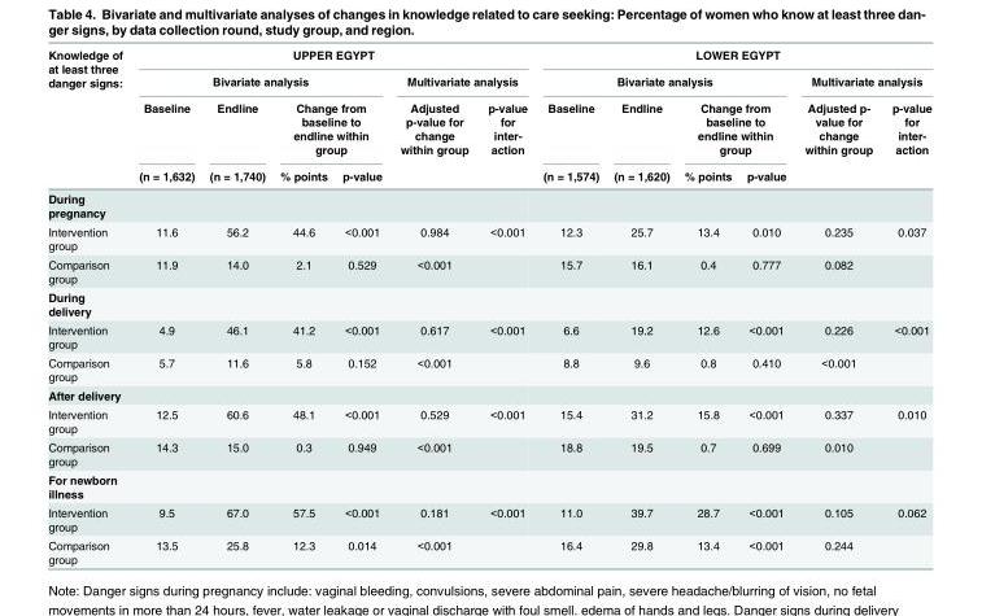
<table><thead><tr><td rowspan="4">Knowledge of at least three danger signs:</td><td colspan="6">UPPER EGYPT</td><td colspan="6">LOWER EGYPT</td></tr><tr><td colspan="4">Bivariate analysis</td><td colspan="2">Multivariate analysis</td><td colspan="4">Bivariate analysis</td><td colspan="2">Multivariate analysis</td></tr><tr><td rowspan="2">Baseline (n = 1,632)</td><td rowspan="2">Endline (n = 1,740)</td><td colspan="2">Change from baseline to endline within group</td><td rowspan="2">Adjusted p-value for change within group</td><td rowspan="2">p-value for inter- action</td><td rowspan="2">Baseline (n = 1,574)</td><td rowspan="2">Endline (n = 1,620)</td><td colspan="2">Change from baseline to endline within group</td><td rowspan="2">Adjusted p- value for change within group</td><td rowspan="2">p-value for inter- action</td></tr><tr><td>% points</td><td>p-value</td><td>% points</td><td>p-value</td></tr></thead><tbody><tr><td colspan="13">During pregnancy</td></tr><tr><td>Intervention group</td><td>11.6</td><td>56.2</td><td>44.6</td><td>&lt;0.001</td><td>0.984</td><td>&lt;0.001</td><td>12.3</td><td>25.7</td><td>13.4</td><td>0.010</td><td>0.235</td><td>0.037</td></tr><tr><td>Comparison group</td><td>11.9</td><td>14.0</td><td>2.1</td><td>0.529</td><td>&lt;0.001</td><td></td><td>15.7</td><td>16.1</td><td>0.4</td><td>0.777</td><td>0.082</td><td></td></tr><tr><td colspan="13">During delivery</td></tr><tr><td>Intervention group</td><td>4.9</td><td>46.1</td><td>41.2</td><td>&lt;0.001</td><td>0.617</td><td>&lt;0.001</td><td>6.6</td><td>19.2</td><td>12.6</td><td>&lt;0.001</td><td>0.226</td><td>&lt;0.001</td></tr><tr><td>Comparison group</td><td>5.7</td><td>11.6</td><td>5.8</td><td>0.152</td><td>&lt;0.001</td><td></td><td>8.8</td><td>9.6</td><td>0.8</td><td>0.410</td><td>&lt;0.001</td><td></td></tr><tr><td colspan="13">After delivery</td></tr><tr><td>Intervention group</td><td>12.5</td><td>60.6</td><td>48.1</td><td>&lt;0.001</td><td>0.529</td><td>&lt;0.001</td><td>15.4</td><td>31.2</td><td>15.8</td><td>&lt;0.001</td><td>0.337</td><td>0.010</td></tr><tr><td>Comparison group</td><td>14.3</td><td>15.0</td><td>0.3</td><td>0.949</td><td>&lt;0.001</td><td></td><td>18.8</td><td>19.5</td><td>0.7</td><td>0.699</td><td>0.010</td><td></td></tr><tr><td colspan="13">For newborn illness</td></tr><tr><td>Intervention group</td><td>9.5</td><td>67.0</td><td>57.5</td><td>&lt;0.001</td><td>0.181</td><td>&lt;0.001</td><td>11.0</td><td>39.7</td><td>28.7</td><td>&lt;0.001</td><td>0.105</td><td>0.062</td></tr><tr><td>Comparison group</td><td>13.5</td><td>25.8</td><td>12.3</td><td>0.014</td><td>&lt;0.001</td><td></td><td>16.4</td><td>29.8</td><td>13.4</td><td>&lt;0.001</td><td>0.244</td><td></td></tr></tbody></table>